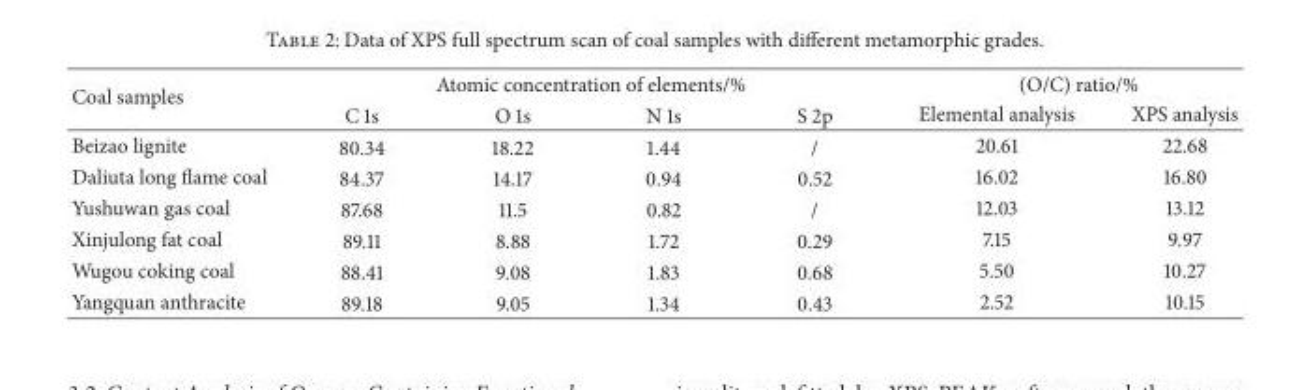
<table><thead><tr><td rowspan="2">Coal samples</td><td colspan="4">Atomic concentration of elements/%</td><td colspan="2">(O/C) ratio/%</td></tr><tr><td>C 1s</td><td>O 1s</td><td>N 1s</td><td>S 2p</td><td>Elemental analysis</td><td>XPS analysis</td></tr></thead><tbody><tr><td>Beizao lignite</td><td>80.34</td><td>18.22</td><td>1.44</td><td>/</td><td>20.61</td><td>22.68</td></tr><tr><td>Daliuta long flame coal</td><td>84.37</td><td>14.17</td><td>0.94</td><td>0.52</td><td>16.02</td><td>16.80</td></tr><tr><td>Yushuwan gas coal</td><td>87.68</td><td>11.5</td><td>0.82</td><td>/</td><td>12.03</td><td>13.12</td></tr><tr><td>Xinjulong fat coal</td><td>89.11</td><td>8.88</td><td>1.72</td><td>0.29</td><td>7.15</td><td>9.97</td></tr><tr><td>Wugou coking coal</td><td>88.41</td><td>9.08</td><td>1.83</td><td>0.68</td><td>5.50</td><td>10.27</td></tr><tr><td>Yangquan anthracite</td><td>89.18</td><td>9.05</td><td>1.34</td><td>0.43</td><td>2.52</td><td>10.15</td></tr></tbody></table>